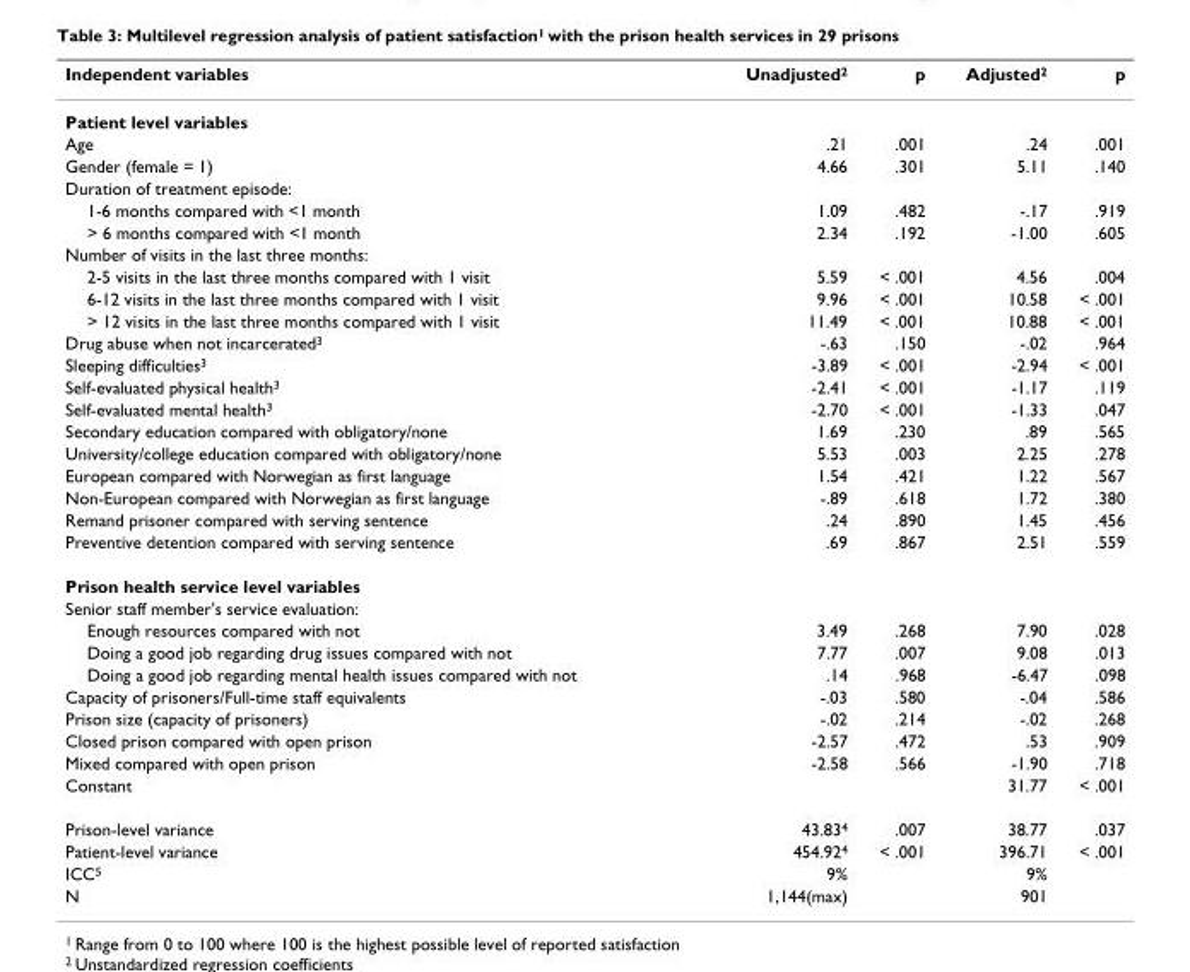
<table><thead><tr><td>Independent variables</td><td>Unadjusted<sup>2</sup></td><td>p</td><td>Adjusted<sup>2</sup></td><td>p</td></tr></thead><tbody><tr><td colspan="5">Patient level variables</td></tr><tr><td>Age</td><td>.21</td><td>.001</td><td>.24</td><td>.001</td></tr><tr><td>Gender (female = 1)</td><td>4.66</td><td>.301</td><td>5.11</td><td>.140</td></tr><tr><td colspan="5">Duration of treatment episode:</td></tr><tr><td>1-6 months compared with &lt;1 month</td><td>1.09</td><td>.482</td><td>-.17</td><td>.919</td></tr><tr><td>&gt; 6 months compared with &lt;1 month</td><td>2.34</td><td>.192</td><td>-1.00</td><td>.605</td></tr><tr><td colspan="5">Number of visits in the last three months:</td></tr><tr><td>2-5 visits in the last three months compared with 1 visit</td><td>5.59</td><td>&lt; .001</td><td>4.56</td><td>.004</td></tr><tr><td>6-12 visits in the last three months compared with 1 visit</td><td>9.96</td><td>&lt; .001</td><td>10.58</td><td>&lt; .001</td></tr><tr><td>&gt; 12 visits in the last three months compared with 1 visit</td><td>11.49</td><td>&lt; .001</td><td>10.88</td><td>&lt; .001</td></tr><tr><td>Drug abuse when not incarcerated<sup>3</sup></td><td>-.63</td><td>.150</td><td>-.02</td><td>.964</td></tr><tr><td>Sleeping difficulties<sup>3</sup></td><td>-3.89</td><td>&lt; .001</td><td>-2.94</td><td>&lt; .001</td></tr><tr><td>Self-evaluated physical health<sup>3</sup></td><td>-2.41</td><td>&lt; .001</td><td>-1.17</td><td>.119</td></tr><tr><td>Self-evaluated mental health<sup>3</sup></td><td>-2.70</td><td>&lt; .001</td><td>-1.33</td><td>.047</td></tr><tr><td>Secondary education compared with obligatory/none</td><td>1.69</td><td>.230</td><td>.89</td><td>.565</td></tr><tr><td>University/college education compared with obligatory/none</td><td>5.53</td><td>.003</td><td>2.25</td><td>.278</td></tr><tr><td>European compared with Norwegian as first language</td><td>1.54</td><td>.421</td><td>1.22</td><td>.567</td></tr><tr><td>Non-European compared with Norwegian as first language</td><td>-.89</td><td>.618</td><td>1.72</td><td>.380</td></tr><tr><td>Remand prisoner compared with serving sentence</td><td>.24</td><td>.890</td><td>1.45</td><td>.456</td></tr><tr><td>Preventive detention compared with serving sentence</td><td>.69</td><td>.867</td><td>2.51</td><td>.559</td></tr><tr><td colspan="5">Prison health service level variables</td></tr><tr><td colspan="5">Senior staff member&#x27;s service evaluation:</td></tr><tr><td>Enough resources compared with not</td><td>3.49</td><td>.268</td><td>7.90</td><td>.028</td></tr><tr><td>Doing a good job regarding drug issues compared with not</td><td>7.77</td><td>.007</td><td>9.08</td><td>.013</td></tr><tr><td>Doing a good job regarding mental health issues compared with not</td><td>.14</td><td>.968</td><td>-6.47</td><td>.098</td></tr><tr><td>Capacity of prisoners/Full-time staff equivalents</td><td>-.03</td><td>.580</td><td>-.04</td><td>.586</td></tr><tr><td>Prison size (capacity of prisoners)</td><td>-.02</td><td>.214</td><td>-.02</td><td>.268</td></tr><tr><td>Closed prison compared with open prison</td><td>-2.57</td><td>.472</td><td>.53</td><td>.909</td></tr><tr><td>Mixed compared with open prison</td><td>-2.58</td><td>.566</td><td>-1.90</td><td>.718</td></tr><tr><td>Constant</td><td></td><td></td><td>31.77</td><td>&lt; .001</td></tr><tr><td>Prison-level variance</td><td>43.83<sup>4</sup></td><td>.007</td><td>38.77</td><td>.037</td></tr><tr><td>Patient-level variance</td><td>454.92<sup>4</sup></td><td>&lt; .001</td><td>396.71</td><td>&lt; .001</td></tr><tr><td>ICC<sup>5</sup></td><td>9%</td><td></td><td>9%</td><td></td></tr><tr><td>N</td><td>1,144(max)</td><td></td><td>901</td><td></td></tr></tbody></table>